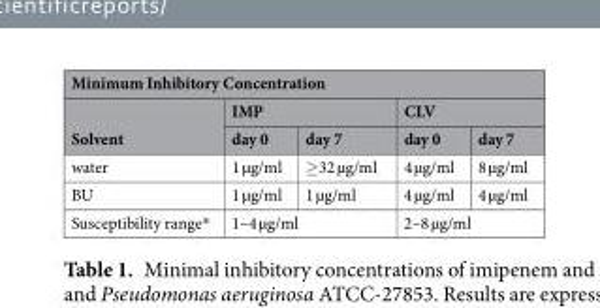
<table><thead><tr><td colspan="5">Minimum Inhibitory Concentration</td></tr><tr><td rowspan="2">Solvent</td><td colspan="2">IMP</td><td colspan="2">CLV</td></tr><tr><td>day 0</td><td>day 7</td><td>day 0</td><td>day 7</td></tr></thead><tbody><tr><td>water</td><td>1 µg/ml</td><td>≥32 µg/ml</td><td>4 µg/ml</td><td>8 µg/ml</td></tr><tr><td>BU</td><td>1 µg/ml</td><td>1 µg/ml</td><td>4 µg/ml</td><td>4 µg/ml</td></tr><tr><td>Susceptibility range*</td><td colspan="2">1–4 µg/ml</td><td colspan="2">2–8 µg/ml</td></tr></tbody></table>